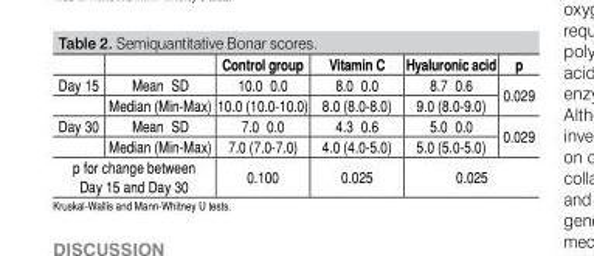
<table><thead><tr><td></td><td></td><td>Control group</td><td>Vitamin C</td><td>Hyaluronic acid</td><td>p</td></tr></thead><tbody><tr><td rowspan="2">Day 15</td><td>Mean±SD</td><td>10.0±0.0</td><td>8.0±0.0</td><td>8.7±0.6</td><td rowspan="2">0.029</td></tr><tr><td>Median (Min-Max)</td><td>10.0 (10.0-10.0)</td><td>8.0 (8.0-8.0)</td><td>9.0 (8.0-9.0)</td></tr><tr><td rowspan="2">Day 30</td><td>Mean±SD</td><td>7.0±0.0</td><td>4.3±0.6</td><td>5.0±0.0</td><td rowspan="2">0.029</td></tr><tr><td>Median (Min-Max)</td><td>7.0 (7.0-7.0)</td><td>4.0 (4.0-5.0)</td><td>5.0 (5.0-5.0)</td></tr><tr><td colspan="2">p for change between Day 15 and Day 30</td><td>0.100</td><td>0.025</td><td>0.025</td><td></td></tr></tbody></table>